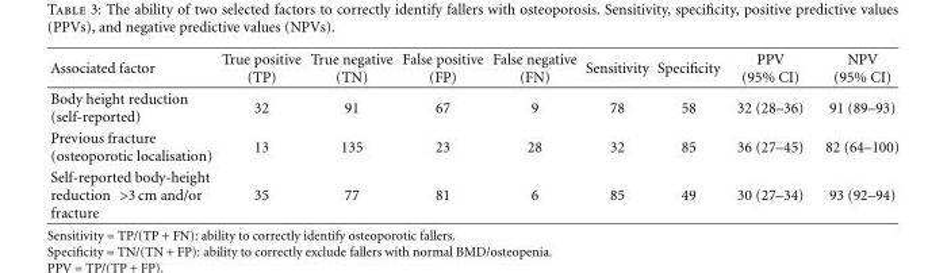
<table><thead><tr><td>Associated factor</td><td>True positive (TP)</td><td>True negative (TN)</td><td>False positive (FP)</td><td>False negative (FN)</td><td>Sensitivity</td><td>Specificity</td><td>PPV (95% CI)</td><td>NPV (95% CI)</td></tr></thead><tbody><tr><td>Body height reduction (self-reported)</td><td>32</td><td>91</td><td>67</td><td>9</td><td>78</td><td>58</td><td>32 (28–36)</td><td>91 (89–93)</td></tr><tr><td>Previous fracture (osteoporotic localisation)</td><td>13</td><td>135</td><td>23</td><td>28</td><td>32</td><td>85</td><td>36 (27–45)</td><td>82 (64–100)</td></tr><tr><td>Self-reported body-height reduction &gt;3 cm and/or fracture</td><td>35</td><td>77</td><td>81</td><td>6</td><td>85</td><td>49</td><td>30 (27–34)</td><td>93 (92–94)</td></tr></tbody></table>